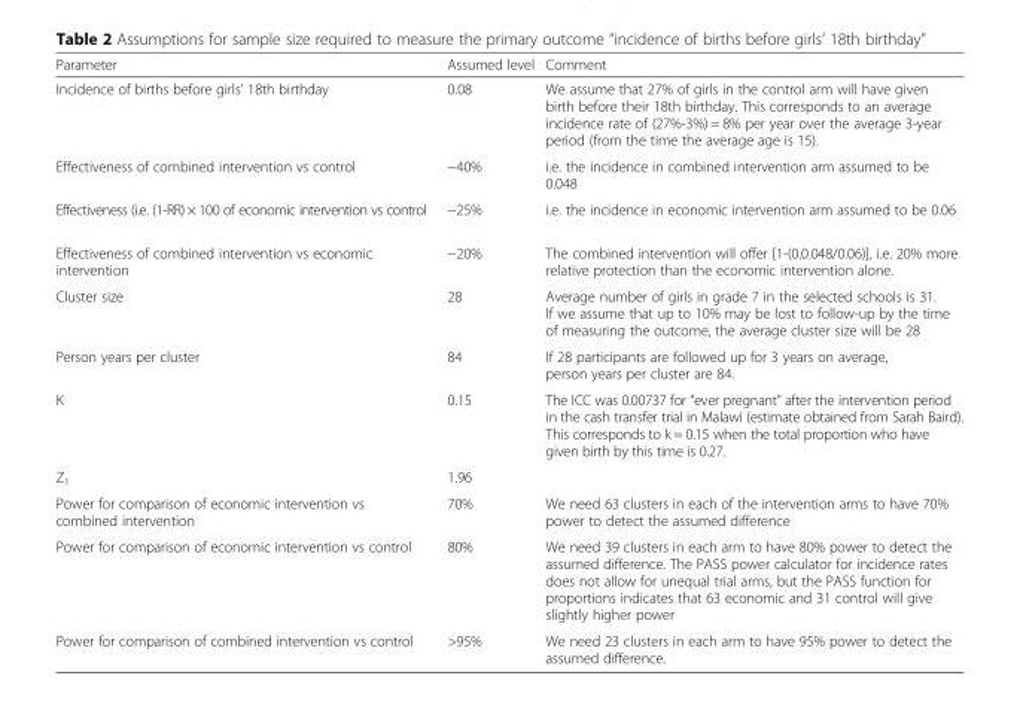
<table><thead><tr><td>Parameter</td><td>Assumed level</td><td>Comment</td></tr></thead><tbody><tr><td>Incidence of births before girls’ 18th birthday</td><td>0.08</td><td>We assume that 27% of girls in the control arm will have given birth before their 18th birthday. This corresponds to an average incidence rate of (27%-3%) = 8% per year over the average 3-year period (from the time the average age is 15).</td></tr><tr><td>Effectiveness of combined intervention vs control</td><td>−40%</td><td>i.e. the incidence in combined intervention arm assumed to be 0.048</td></tr><tr><td>Effectiveness (i.e. (1-RR) × 100 of economic intervention vs control</td><td>−25%</td><td>i.e. the incidence in economic intervention arm assumed to be 0.06</td></tr><tr><td>Effectiveness of combined intervention vs economic intervention</td><td>−20%</td><td>The combined intervention will offer [1-(0.0.048/0.06)], i.e. 20% more relative protection than the economic intervention alone.</td></tr><tr><td>Cluster size</td><td>28</td><td>Average number of girls in grade 7 in the selected schools is 31. If we assume that up to 10% may be lost to follow-up by the time of measuring the outcome, the average cluster size will be 28</td></tr><tr><td>Person years per cluster</td><td>84</td><td>If 28 participants are followed up for 3 years on average, person years per cluster are 84.</td></tr><tr><td>K</td><td>0.15</td><td>The ICC was 0.00737 for “ever pregnant” after the intervention period in the cash transfer trial in Malawi (estimate obtained from Sarah Baird). This corresponds to k = 0.15 when the total proportion who have given birth by this time is 0.27.</td></tr><tr><td>Z<sub>1</sub></td><td>1.96</td><td></td></tr><tr><td>Power for comparison of economic intervention vs combined intervention</td><td>70%</td><td>We need 63 clusters in each of the intervention arms to have 70% power to detect the assumed difference</td></tr><tr><td>Power for comparison of economic intervention vs control</td><td>80%</td><td>We need 39 clusters in each arm to have 80% power to detect the assumed difference. The PASS power calculator for incidence rates does not allow for unequal trial arms, but the PASS function for proportions indicates that 63 economic and 31 control will give slightly higher power</td></tr><tr><td>Power for comparison of combined intervention vs control</td><td>&gt;95%</td><td>We need 23 clusters in each arm to have 95% power to detect the assumed difference.</td></tr></tbody></table>